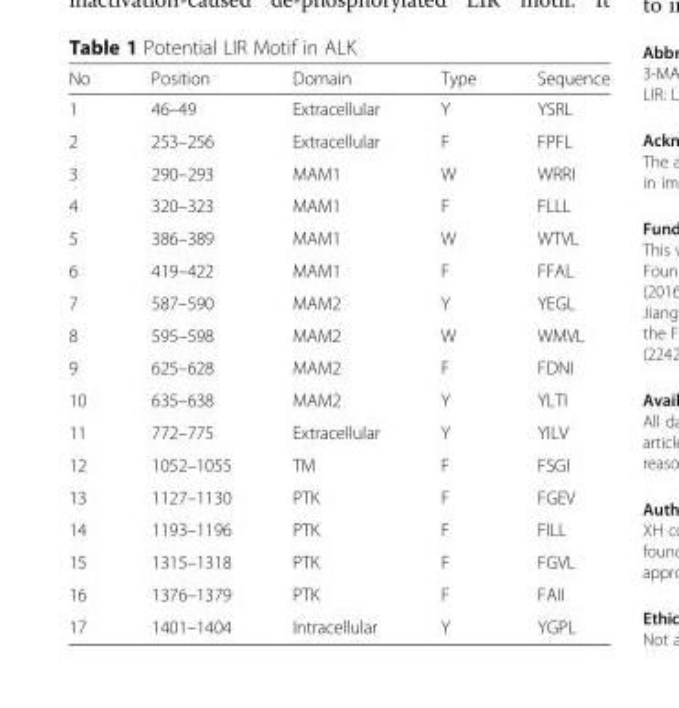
<table><thead><tr><td>No</td><td>Position</td><td>Domain</td><td>Type</td><td>Sequence</td></tr></thead><tbody><tr><td>1</td><td>46–49</td><td>Extracellular</td><td>Y</td><td>YSRL</td></tr><tr><td>2</td><td>253–256</td><td>Extracellular</td><td>F</td><td>FPFL</td></tr><tr><td>3</td><td>290–293</td><td>MAM1</td><td>W</td><td>WRRI</td></tr><tr><td>4</td><td>320–323</td><td>MAM1</td><td>F</td><td>FLLL</td></tr><tr><td>5</td><td>386–389</td><td>MAM1</td><td>W</td><td>WTVL</td></tr><tr><td>6</td><td>419–422</td><td>MAM1</td><td>F</td><td>FFAL</td></tr><tr><td>7</td><td>587–590</td><td>MAM2</td><td>Y</td><td>YEGL</td></tr><tr><td>8</td><td>595–598</td><td>MAM2</td><td>W</td><td>WMVL</td></tr><tr><td>9</td><td>625–628</td><td>MAM2</td><td>F</td><td>FDNI</td></tr><tr><td>10</td><td>635–638</td><td>MAM2</td><td>Y</td><td>YLTI</td></tr><tr><td>11</td><td>772–775</td><td>Extracellular</td><td>Y</td><td>YILV</td></tr><tr><td>12</td><td>1052–1055</td><td>TM</td><td>F</td><td>FSGI</td></tr><tr><td>13</td><td>1127–1130</td><td>PTK</td><td>F</td><td>FGEV</td></tr><tr><td>14</td><td>1193–1196</td><td>PTK</td><td>F</td><td>FILL</td></tr><tr><td>15</td><td>1315–1318</td><td>PTK</td><td>F</td><td>FGVL</td></tr><tr><td>16</td><td>1376–1379</td><td>PTK</td><td>F</td><td>FAII</td></tr><tr><td>17</td><td>1401–1404</td><td>Intracellular</td><td>Y</td><td>YGPL</td></tr></tbody></table>